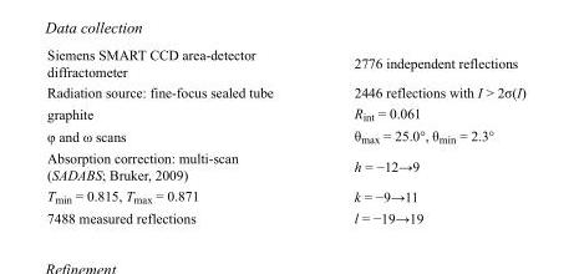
<table><tbody><tr><td>Siemens SMART CCD area-detector diffractometer</td><td>2776 independent reflections</td></tr><tr><td>Radiation source: fine-focus sealed tube</td><td>2446 reflections with I &gt; 2σ(I)</td></tr><tr><td>graphite</td><td>R<sub>int</sub> = 0.061</td></tr><tr><td>φ and ω scans</td><td>θ<sub>max</sub> = 25.0°, θ<sub>min</sub> = 2.3°</td></tr><tr><td>Absorption correction: multi-scan (SADABS; Bruker, 2009)</td><td>h = −12→9</td></tr><tr><td>T<sub>min</sub> = 0.815, T<sub>max</sub> = 0.871</td><td>k = −9→11</td></tr><tr><td>7488 measured reflections</td><td>l = −19→19</td></tr></tbody></table>